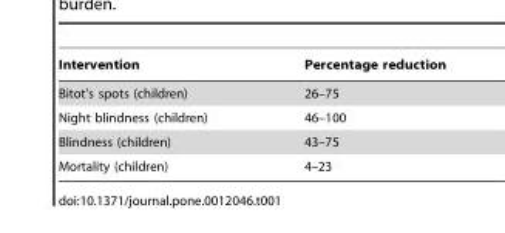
<table><thead><tr><td>Intervention</td><td>Percentage reduction</td></tr></thead><tbody><tr><td>Bitot’s spots (children)</td><td>26–75</td></tr><tr><td>Night blindness (children)</td><td>46–100</td></tr><tr><td>Blindness (children)</td><td>43–75</td></tr><tr><td>Mortality (children)</td><td>4–23</td></tr></tbody></table>